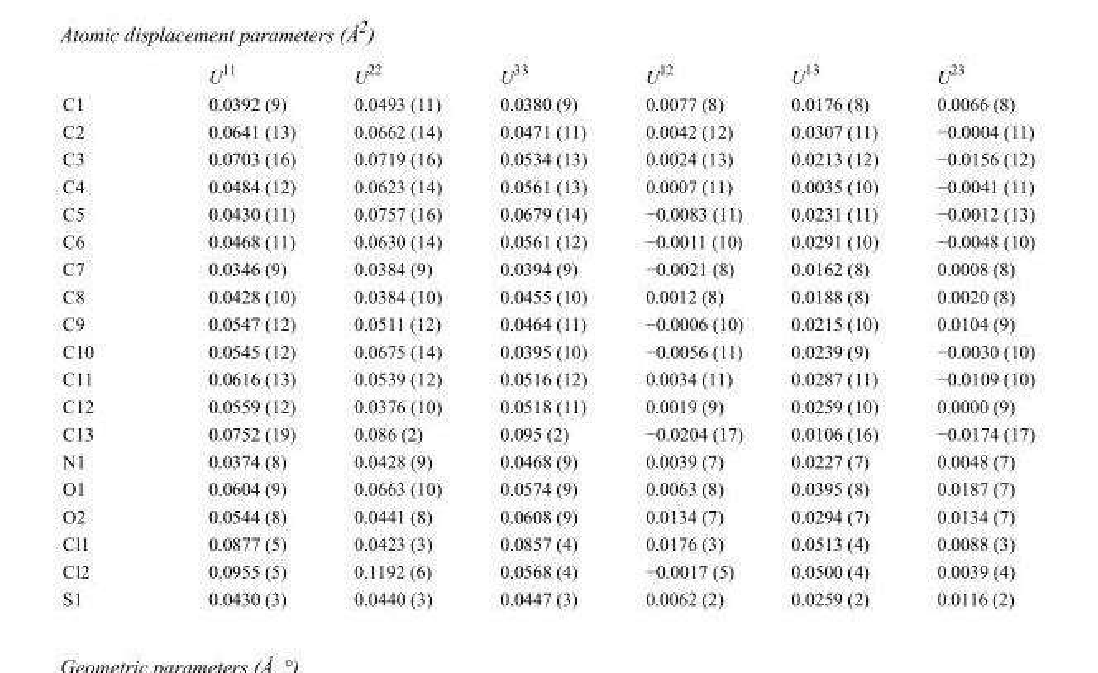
<table><thead><tr><td></td><td>U<sup>11</sup></td><td>U<sup>22</sup></td><td>U<sup>33</sup></td><td>U<sup>12</sup></td><td>U<sup>13</sup></td><td>U<sup>23</sup></td></tr></thead><tbody><tr><td>C1</td><td>0.0392 (9)</td><td>0.0493 (11)</td><td>0.0380 (9)</td><td>0.0077 (8)</td><td>0.0176 (8)</td><td>0.0066 (8)</td></tr><tr><td>C2</td><td>0.0641 (13)</td><td>0.0662 (14)</td><td>0.0471 (11)</td><td>0.0042 (12)</td><td>0.0307 (11)</td><td>−0.0004 (11)</td></tr><tr><td>C3</td><td>0.0703 (16)</td><td>0.0719 (16)</td><td>0.0534 (13)</td><td>0.0024 (13)</td><td>0.0213 (12)</td><td>−0.0156 (12)</td></tr><tr><td>C4</td><td>0.0484 (12)</td><td>0.0623 (14)</td><td>0.0561 (13)</td><td>0.0007 (11)</td><td>0.0035 (10)</td><td>−0.0041 (11)</td></tr><tr><td>C5</td><td>0.0430 (11)</td><td>0.0757 (16)</td><td>0.0679 (14)</td><td>−0.0083 (11)</td><td>0.0231 (11)</td><td>−0.0012 (13)</td></tr><tr><td>C6</td><td>0.0468 (11)</td><td>0.0630 (14)</td><td>0.0561 (12)</td><td>−0.0011 (10)</td><td>0.0291 (10)</td><td>−0.0048 (10)</td></tr><tr><td>C7</td><td>0.0346 (9)</td><td>0.0384 (9)</td><td>0.0394 (9)</td><td>−0.0021 (8)</td><td>0.0162 (8)</td><td>0.0008 (8)</td></tr><tr><td>C8</td><td>0.0428 (10)</td><td>0.0384 (10)</td><td>0.0455 (10)</td><td>0.0012 (8)</td><td>0.0188 (8)</td><td>0.0020 (8)</td></tr><tr><td>C9</td><td>0.0547 (12)</td><td>0.0511 (12)</td><td>0.0464 (11)</td><td>−0.0006 (10)</td><td>0.0215 (10)</td><td>0.0104 (9)</td></tr><tr><td>C10</td><td>0.0545 (12)</td><td>0.0675 (14)</td><td>0.0395 (10)</td><td>−0.0056 (11)</td><td>0.0239 (9)</td><td>−0.0030 (10)</td></tr><tr><td>C11</td><td>0.0616 (13)</td><td>0.0539 (12)</td><td>0.0516 (12)</td><td>0.0034 (11)</td><td>0.0287 (11)</td><td>−0.0109 (10)</td></tr><tr><td>C12</td><td>0.0559 (12)</td><td>0.0376 (10)</td><td>0.0518 (11)</td><td>0.0019 (9)</td><td>0.0259 (10)</td><td>0.0000 (9)</td></tr><tr><td>C13</td><td>0.0752 (19)</td><td>0.086 (2)</td><td>0.095 (2)</td><td>−0.0204 (17)</td><td>0.0106 (16)</td><td>−0.0174 (17)</td></tr><tr><td>N1</td><td>0.0374 (8)</td><td>0.0428 (9)</td><td>0.0468 (9)</td><td>0.0039 (7)</td><td>0.0227 (7)</td><td>0.0048 (7)</td></tr><tr><td>O1</td><td>0.0604 (9)</td><td>0.0663 (10)</td><td>0.0574 (9)</td><td>0.0063 (8)</td><td>0.0395 (8)</td><td>0.0187 (7)</td></tr><tr><td>O2</td><td>0.0544 (8)</td><td>0.0441 (8)</td><td>0.0608 (9)</td><td>0.0134 (7)</td><td>0.0294 (7)</td><td>0.0134 (7)</td></tr><tr><td>Cl1</td><td>0.0877 (5)</td><td>0.0423 (3)</td><td>0.0857 (4)</td><td>0.0176 (3)</td><td>0.0513 (4)</td><td>0.0088 (3)</td></tr><tr><td>Cl2</td><td>0.0955 (5)</td><td>0.1192 (6)</td><td>0.0568 (4)</td><td>−0.0017 (5)</td><td>0.0500 (4)</td><td>0.0039 (4)</td></tr><tr><td>S1</td><td>0.0430 (3)</td><td>0.0440 (3)</td><td>0.0447 (3)</td><td>0.0062 (2)</td><td>0.0259 (2)</td><td>0.0116 (2)</td></tr></tbody></table>